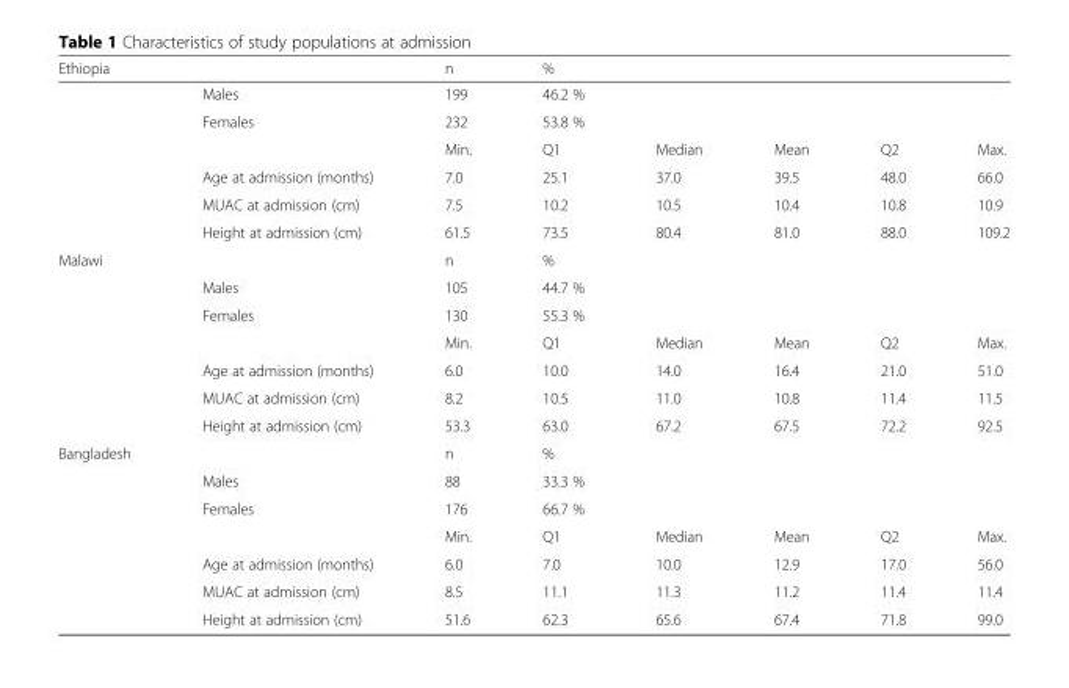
<table><thead><tr><td>Ethiopia</td><td></td><td>n</td><td>%</td><td></td><td></td><td></td><td></td></tr></thead><tbody><tr><td></td><td>Males</td><td>199</td><td>46.2 %</td><td></td><td></td><td></td><td></td></tr><tr><td></td><td>Females</td><td>232</td><td>53.8 %</td><td></td><td></td><td></td><td></td></tr><tr><td></td><td></td><td>Min.</td><td>Q1</td><td>Median</td><td>Mean</td><td>Q2</td><td>Max.</td></tr><tr><td></td><td>Age at admission (months)</td><td>7.0</td><td>25.1</td><td>37.0</td><td>39.5</td><td>48.0</td><td>66.0</td></tr><tr><td></td><td>MUAC at admission (cm)</td><td>7.5</td><td>10.2</td><td>10.5</td><td>10.4</td><td>10.8</td><td>10.9</td></tr><tr><td></td><td>Height at admission (cm)</td><td>61.5</td><td>73.5</td><td>80.4</td><td>81.0</td><td>88.0</td><td>109.2</td></tr><tr><td rowspan="7">Malawi</td><td></td><td>n</td><td>%</td><td></td><td></td><td></td><td></td></tr><tr><td>Males</td><td>105</td><td>44.7 %</td><td></td><td></td><td></td><td></td></tr><tr><td>Females</td><td>130</td><td>55.3 %</td><td></td><td></td><td></td><td></td></tr><tr><td></td><td>Min.</td><td>Q1</td><td>Median</td><td>Mean</td><td>Q2</td><td>Max.</td></tr><tr><td>Age at admission (months)</td><td>6.0</td><td>10.0</td><td>14.0</td><td>16.4</td><td>21.0</td><td>51.0</td></tr><tr><td>MUAC at admission (cm)</td><td>8.2</td><td>10.5</td><td>11.0</td><td>10.8</td><td>11.4</td><td>11.5</td></tr><tr><td>Height at admission (cm)</td><td>53.3</td><td>63.0</td><td>67.2</td><td>67.5</td><td>72.2</td><td>92.5</td></tr><tr><td rowspan="7">Bangladesh</td><td></td><td>n</td><td>%</td><td></td><td></td><td></td><td></td></tr><tr><td>Males</td><td>88</td><td>33.3 %</td><td></td><td></td><td></td><td></td></tr><tr><td>Females</td><td>176</td><td>66.7 %</td><td></td><td></td><td></td><td></td></tr><tr><td></td><td>Min.</td><td>Q1</td><td>Median</td><td>Mean</td><td>Q2</td><td>Max.</td></tr><tr><td>Age at admission (months)</td><td>6.0</td><td>7.0</td><td>10.0</td><td>12.9</td><td>17.0</td><td>56.0</td></tr><tr><td>MUAC at admission (cm)</td><td>8.5</td><td>11.1</td><td>11.3</td><td>11.2</td><td>11.4</td><td>11.4</td></tr><tr><td>Height at admission (cm)</td><td>51.6</td><td>62.3</td><td>65.6</td><td>67.4</td><td>71.8</td><td>99.0</td></tr></tbody></table>